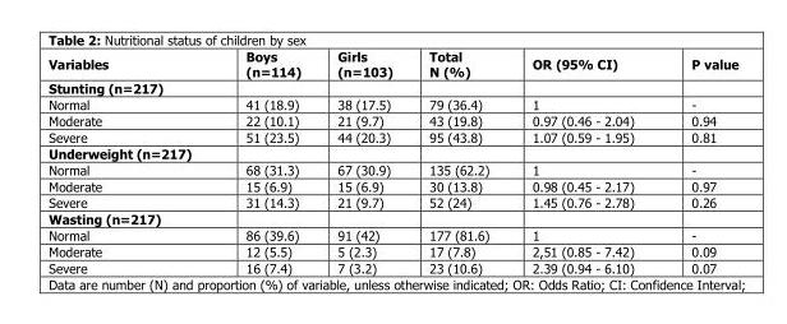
<table><thead><tr><td>Variables</td><td>Boys (n=114)</td><td>Girls (n=103)</td><td>Total N (%)</td><td>OR (95% CI)</td><td>P value</td></tr></thead><tbody><tr><td colspan="6">Stunting (n=217)</td></tr><tr><td>Normal</td><td>41 (18.9)</td><td>38 (17.5)</td><td>79 (36.4)</td><td>1</td><td>-</td></tr><tr><td>Moderate</td><td>22 (10.1)</td><td>21 (9.7)</td><td>43 (19.8)</td><td>0.97 (0.46 - 2.04)</td><td>0.94</td></tr><tr><td>Severe</td><td>51 (23.5)</td><td>44 (20.3)</td><td>95 (43.8)</td><td>1.07 (0.59 - 1.95)</td><td>0.81</td></tr><tr><td colspan="6">Underweight (n=217)</td></tr><tr><td>Normal</td><td>68 (31.3)</td><td>67 (30.9)</td><td>135 (62.2)</td><td>1</td><td>-</td></tr><tr><td>Moderate</td><td>15 (6.9)</td><td>15 (6.9)</td><td>30 (13.8)</td><td>0.98 (0.45 - 2.17)</td><td>0.97</td></tr><tr><td>Severe</td><td>31 (14.3)</td><td>21 (9.7)</td><td>52 (24)</td><td>1.45 (0.76 - 2.78)</td><td>0.26</td></tr><tr><td colspan="6">Wasting (n=217)</td></tr><tr><td>Normal</td><td>86 (39.6)</td><td>91 (42)</td><td>177 (81.6)</td><td>1</td><td>-</td></tr><tr><td>Moderate</td><td>12 (5.5)</td><td>5 (2.3)</td><td>17 (7.8)</td><td>2,51 (0.85 - 7.42)</td><td>0.09</td></tr><tr><td>Severe</td><td>16 (7.4)</td><td>7 (3.2)</td><td>23 (10.6)</td><td>2.39 (0.94 - 6.10)</td><td>0.07</td></tr></tbody></table>